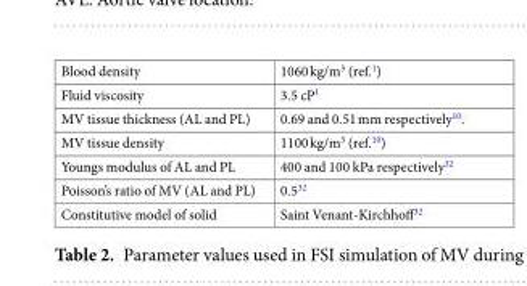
<table><tbody><tr><td>Blood density</td><td>1060 kg/m<sup>3</sup> (ref.<sup>1</sup>)</td></tr><tr><td>Fluid viscosity</td><td>3.5 cP<sup>1</sup></td></tr><tr><td>MV tissue thickness (AL and PL)</td><td>0.69 and 0.51 mm respectively<sup>10</sup>.</td></tr><tr><td>MV tissue density</td><td>1100 kg/m<sup>3</sup> (ref.<sup>10</sup>)</td></tr><tr><td>Youngs modulus of AL and PL</td><td>400 and 100 kPa respectively<sup>32</sup></td></tr><tr><td>Poisson’s ratio of MV (AL and PL)</td><td>0.5<sup>32</sup></td></tr><tr><td>Constitutive model of solid</td><td>Saint Venant-Kirchhoff<sup>32</sup></td></tr></tbody></table>